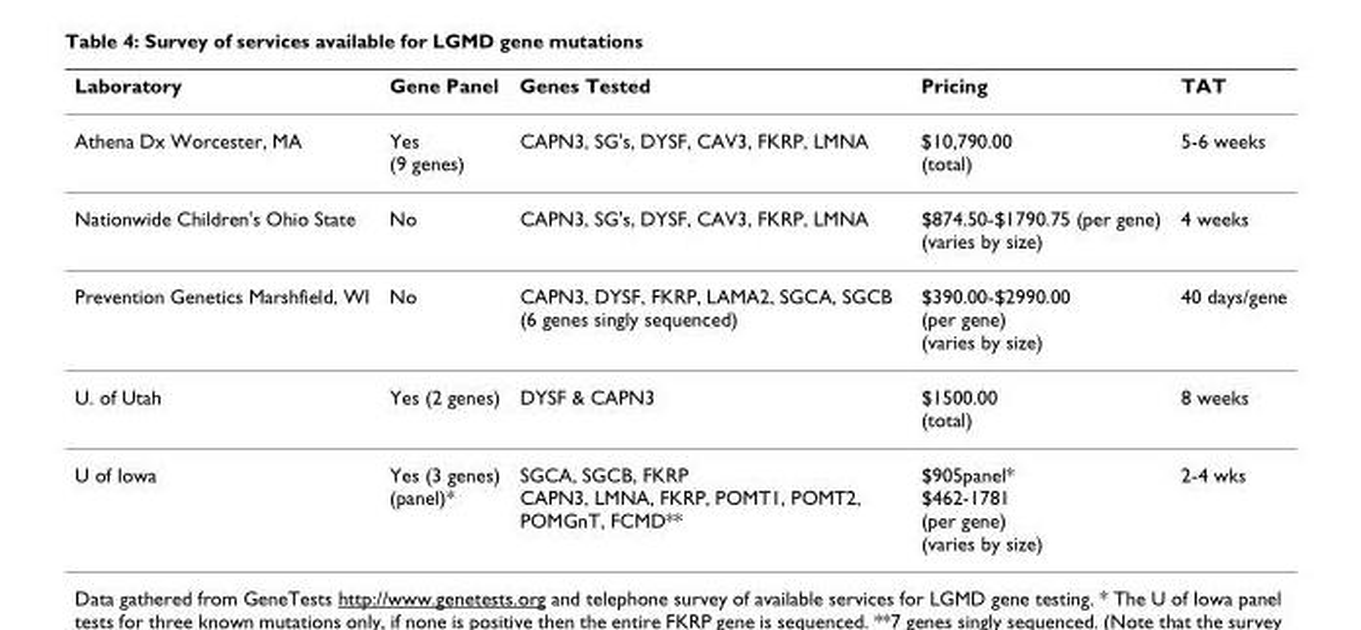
<table><thead><tr><td>Laboratory</td><td>Gene Panel</td><td>Genes Tested</td><td>Pricing</td><td>TAT</td></tr></thead><tbody><tr><td>Athena Dx Worcester, MA</td><td>Yes (9 genes)</td><td>CAPN3, SG&#x27;s, DYSF, CAV3, FKRP, LMNA</td><td>$10,790.00 (total)</td><td>5-6 weeks</td></tr><tr><td>Nationwide Children&#x27;s Ohio State</td><td>No</td><td>CAPN3, SG&#x27;s, DYSF, CAV3, FKRP, LMNA</td><td>$874.50-$1790.75 (per gene) (varies by size)</td><td>4 weeks</td></tr><tr><td>Prevention Genetics Marshfield, WI</td><td>No</td><td>CAPN3, DYSF, FKRP, LAMA2, SGCA, SGCB (6 genes singly sequenced)</td><td>$390.00-$2990.00 (per gene) (varies by size)</td><td>40 days/gene</td></tr><tr><td>U. of Utah</td><td>Yes (2 genes)</td><td>DYSF &amp; CAPN3</td><td>$1500.00 (total)</td><td>8 weeks</td></tr><tr><td>U of Iowa</td><td>Yes (3 genes) (panel)*</td><td>SGCA, SGCB, FKRP CAPN3, LMNA, FKRP, POMT1, POMT2, POMGnT, FCMD**</td><td>$905panel* $462-1781 (per gene) (varies by size)</td><td>2-4 wks</td></tr></tbody></table>